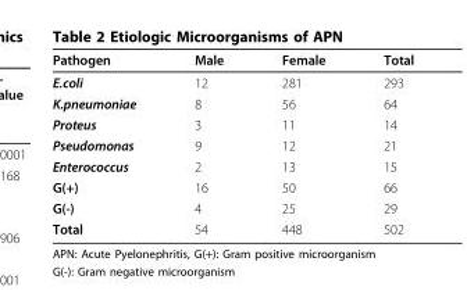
<table><thead><tr><td>Pathogen</td><td>Male</td><td>Female</td><td>Total</td></tr></thead><tbody><tr><td>E.coli</td><td>12</td><td>281</td><td>293</td></tr><tr><td>K.pneumoniae</td><td>8</td><td>56</td><td>64</td></tr><tr><td>Proteus</td><td>3</td><td>11</td><td>14</td></tr><tr><td>Pseudomonas</td><td>9</td><td>12</td><td>21</td></tr><tr><td>Enterococcus</td><td>2</td><td>13</td><td>15</td></tr><tr><td>G(+)</td><td>16</td><td>50</td><td>66</td></tr><tr><td>G(-)</td><td>4</td><td>25</td><td>29</td></tr><tr><td>Total</td><td>54</td><td>448</td><td>502</td></tr></tbody></table>